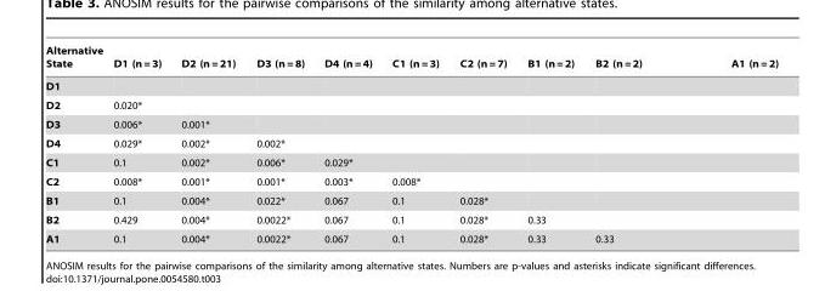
<table><thead><tr><td>Alternative State</td><td>D1 (n = 3)</td><td>D2 (n = 21)</td><td>D3 (n = 8)</td><td>D4 (n = 4)</td><td>C1 (n = 3)</td><td>C2 (n = 7)</td><td>B1 (n = 2)</td><td>B2 (n = 2)</td><td>A1 (n = 2)</td></tr></thead><tbody><tr><td colspan="10">D1</td></tr><tr><td>D2</td><td>0.020*</td><td></td><td></td><td></td><td></td><td></td><td></td><td></td><td></td></tr><tr><td>D3</td><td>0.006*</td><td>0.001*</td><td></td><td></td><td></td><td></td><td></td><td></td><td></td></tr><tr><td>D4</td><td>0.029*</td><td>0.002*</td><td>0.002*</td><td></td><td></td><td></td><td></td><td></td><td></td></tr><tr><td>C1</td><td>0.1</td><td>0.002*</td><td>0.006*</td><td>0.029*</td><td></td><td></td><td></td><td></td><td></td></tr><tr><td>C2</td><td>0.008*</td><td>0.001*</td><td>0.001*</td><td>0.003*</td><td>0.008*</td><td></td><td></td><td></td><td></td></tr><tr><td>B1</td><td>0.1</td><td>0.004*</td><td>0.022*</td><td>0.067</td><td>0.1</td><td>0.028*</td><td></td><td></td><td></td></tr><tr><td>B2</td><td>0.429</td><td>0.004*</td><td>0.0022*</td><td>0.067</td><td>0.1</td><td>0.028*</td><td>0.33</td><td></td><td></td></tr><tr><td>A1</td><td>0.1</td><td>0.004*</td><td>0.0022*</td><td>0.067</td><td>0.1</td><td>0.028*</td><td>0.33</td><td>0.33</td><td></td></tr></tbody></table>